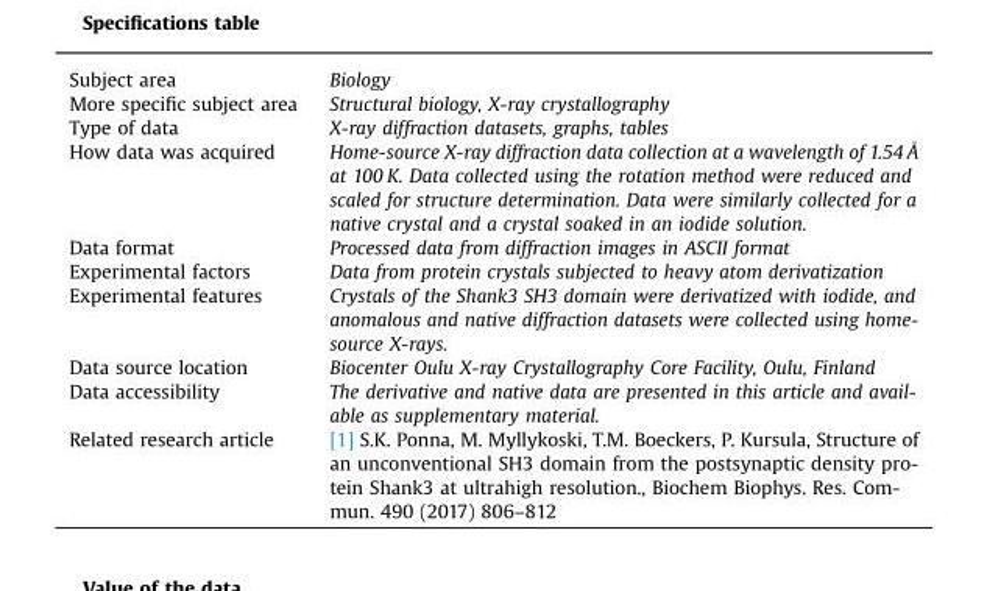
<table><tbody><tr><td>Subject area</td><td>Biology</td></tr><tr><td>More specific subject area</td><td>Structural biology, X-ray crystallography</td></tr><tr><td>Type of data</td><td>X-ray diffraction datasets, graphs, tables</td></tr><tr><td>How data was acquired</td><td>Home-source X-ray diffraction data collection at a wavelength of 1.54 Å at 100 K. Data collected using the rotation method were reduced and scaled for structure determination. Data were similarly collected for a native crystal and a crystal soaked in an iodide solution.</td></tr><tr><td>Data format</td><td>Processed data from diffraction images in ASCII format</td></tr><tr><td>Experimental factors</td><td>Data from protein crystals subjected to heavy atom derivatization</td></tr><tr><td>Experimental features</td><td>Crystals of the Shank3 SH3 domain were derivatized with iodide, and anomalous and native diffraction datasets were collected using home- source X-rays.</td></tr><tr><td>Data source location</td><td>Biocenter Oulu X-ray Crystallography Core Facility, Oulu, Finland</td></tr><tr><td>Data accessibility</td><td>The derivative and native data are presented in this article and avail- able as supplementary material.</td></tr><tr><td>Related research article</td><td>[1] S.K. Ponna, M. Myllykoski, T.M. Boeckers, P. Kursula, Structure of an unconventional SH3 domain from the postsynaptic density pro- tein Shank3 at ultrahigh resolution., Biochem Biophys. Res. Com- mun. 490 (2017) 806–812</td></tr></tbody></table>